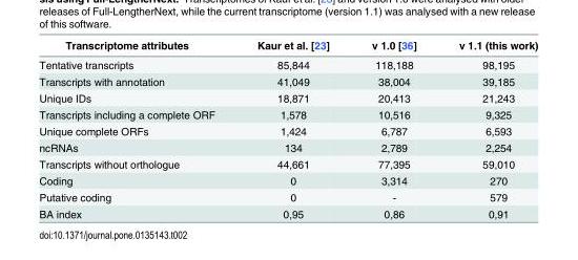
<table><thead><tr><td>Transcriptome attributes</td><td>Kaur et al. [23]</td><td>v 1.0 [36]</td><td>v 1.1 (this work)</td></tr></thead><tbody><tr><td>Tentative transcripts</td><td>85,844</td><td>118,188</td><td>98,195</td></tr><tr><td>Transcripts with annotation</td><td>41,049</td><td>38,004</td><td>39,185</td></tr><tr><td>Unique IDs</td><td>18,871</td><td>20,413</td><td>21,243</td></tr><tr><td>Transcripts including a complete ORF</td><td>1,578</td><td>10,516</td><td>9,325</td></tr><tr><td>Unique complete ORFs</td><td>1,424</td><td>6,787</td><td>6,593</td></tr><tr><td>ncRNAs</td><td>134</td><td>2,789</td><td>2,254</td></tr><tr><td>Transcripts without orthologue</td><td>44,661</td><td>77,395</td><td>59,010</td></tr><tr><td>Coding</td><td>0</td><td>3,314</td><td>270</td></tr><tr><td>Putative coding</td><td>0</td><td>-</td><td>579</td></tr><tr><td>BA index</td><td>0,95</td><td>0,86</td><td>0,91</td></tr></tbody></table>